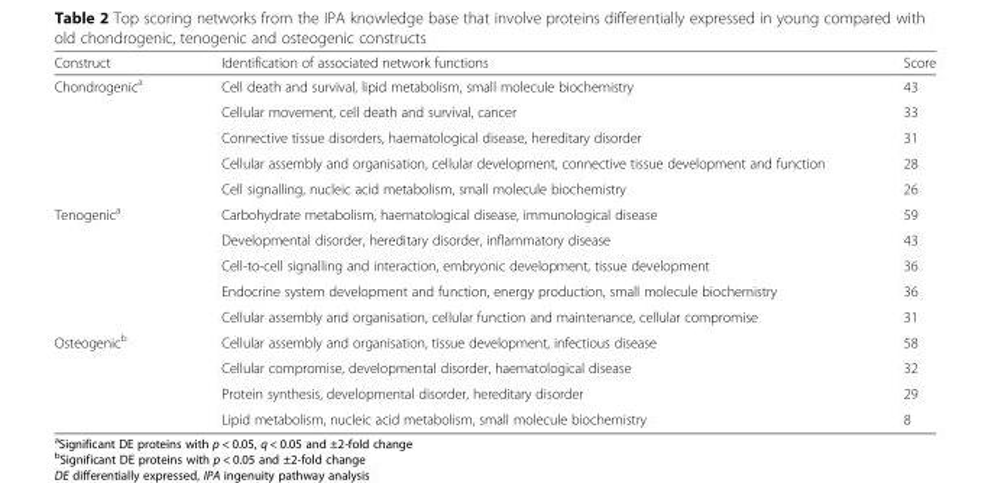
<table><thead><tr><td>Construct</td><td>Identification of associated network functions</td><td>Score</td></tr></thead><tbody><tr><td rowspan="5">Chondrogenic<sup>a</sup></td><td>Cell death and survival, lipid metabolism, small molecule biochemistry</td><td>43</td></tr><tr><td>Cellular movement, cell death and survival, cancer</td><td>33</td></tr><tr><td>Connective tissue disorders, haematological disease, hereditary disorder</td><td>31</td></tr><tr><td>Cellular assembly and organisation, cellular development, connective tissue development and function</td><td>28</td></tr><tr><td>Cell signalling, nucleic acid metabolism, small molecule biochemistry</td><td>26</td></tr><tr><td rowspan="5">Tenogenic<sup>a</sup></td><td>Carbohydrate metabolism, haematological disease, immunological disease</td><td>59</td></tr><tr><td>Developmental disorder, hereditary disorder, inflammatory disease</td><td>43</td></tr><tr><td>Cell-to-cell signalling and interaction, embryonic development, tissue development</td><td>36</td></tr><tr><td>Endocrine system development and function, energy production, small molecule biochemistry</td><td>36</td></tr><tr><td>Cellular assembly and organisation, cellular function and maintenance, cellular compromise</td><td>31</td></tr><tr><td rowspan="4">Osteogenic<sup>b</sup></td><td>Cellular assembly and organisation, tissue development, infectious disease</td><td>58</td></tr><tr><td>Cellular compromise, developmental disorder, haematological disease</td><td>32</td></tr><tr><td>Protein synthesis, developmental disorder, hereditary disorder</td><td>29</td></tr><tr><td>Lipid metabolism, nucleic acid metabolism, small molecule biochemistry</td><td>8</td></tr></tbody></table>